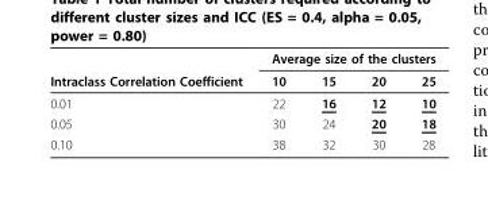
<table><thead><tr><td rowspan="2">Intraclass Correlation Coefficient</td><td colspan="4">Average size of the clusters</td></tr><tr><td>10</td><td>15</td><td>20</td><td>25</td></tr></thead><tbody><tr><td>0.01</td><td>22</td><td>16</td><td>12</td><td>10</td></tr><tr><td>0.05</td><td>30</td><td>24</td><td>20</td><td>18</td></tr><tr><td>0.10</td><td>38</td><td>32</td><td>30</td><td>28</td></tr></tbody></table>